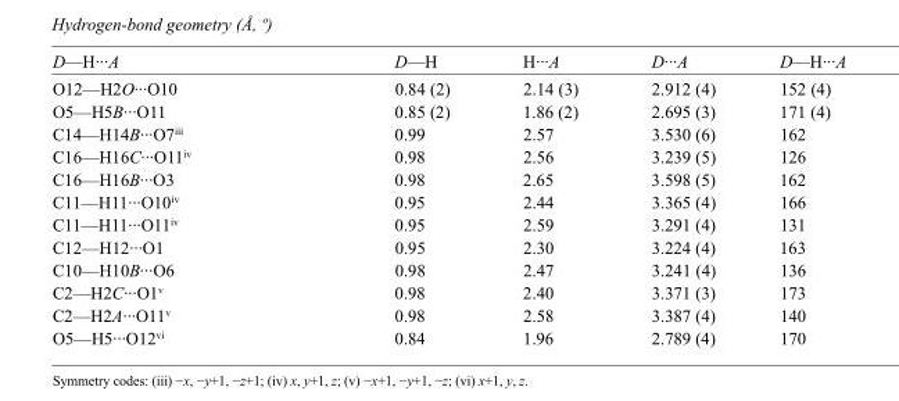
<table><tbody><tr><td>D—H···A</td><td>D—H</td><td>H···A</td><td>D···A</td><td>D—H···A</td></tr><tr><td>O12—H2O···O10</td><td>0.84 (2)</td><td>2.14 (3)</td><td>2.912 (4)</td><td>152 (4)</td></tr><tr><td>O5—H5B···O11</td><td>0.85 (2)</td><td>1.86 (2)</td><td>2.695 (3)</td><td>171 (4)</td></tr><tr><td>C14—H14B···O7<sup>iii</sup></td><td>0.99</td><td>2.57</td><td>3.530 (6)</td><td>162</td></tr><tr><td>C16—H16C···O11<sup>iv</sup></td><td>0.98</td><td>2.56</td><td>3.239 (5)</td><td>126</td></tr><tr><td>C16—H16B···O3</td><td>0.98</td><td>2.65</td><td>3.598 (5)</td><td>162</td></tr><tr><td>C11—H11···O10<sup>iv</sup></td><td>0.95</td><td>2.44</td><td>3.365 (4)</td><td>166</td></tr><tr><td>C11—H11···O11<sup>iv</sup></td><td>0.95</td><td>2.59</td><td>3.291 (4)</td><td>131</td></tr><tr><td>C12—H12···O1</td><td>0.95</td><td>2.30</td><td>3.224 (4)</td><td>163</td></tr><tr><td>C10—H10B···O6</td><td>0.98</td><td>2.47</td><td>3.241 (4)</td><td>136</td></tr><tr><td>C2—H2C···O1<sup>v</sup></td><td>0.98</td><td>2.40</td><td>3.371 (3)</td><td>173</td></tr><tr><td>C2—H2A···O11<sup>v</sup></td><td>0.98</td><td>2.58</td><td>3.387 (4)</td><td>140</td></tr><tr><td>O5—H5···O12<sup>vi</sup></td><td>0.84</td><td>1.96</td><td>2.789 (4)</td><td>170</td></tr></tbody></table>